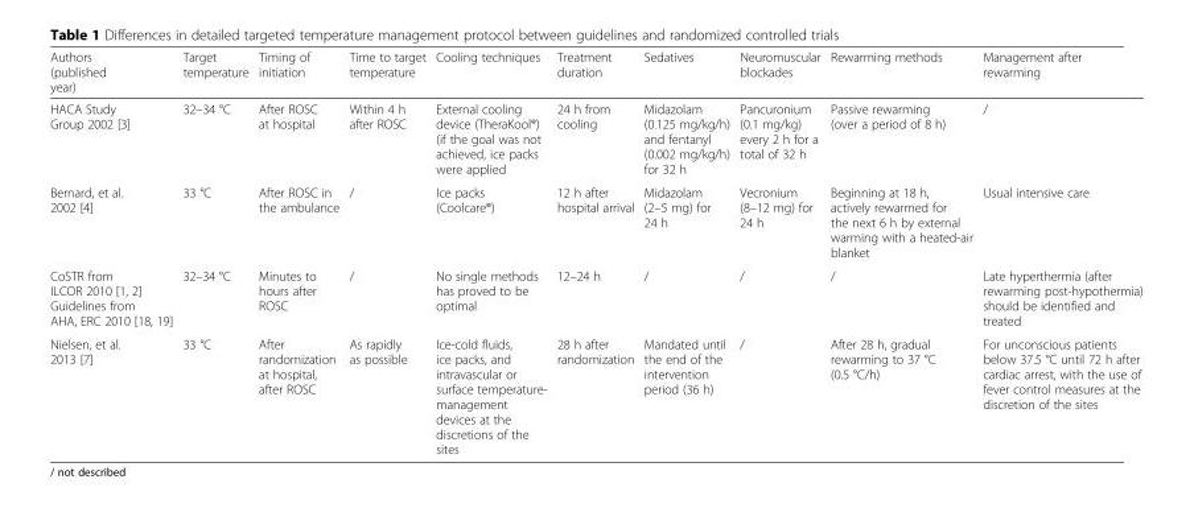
<table><thead><tr><td>Authors (published year)</td><td>Target temperature</td><td>Timing of initiation</td><td>Time to target temperature</td><td>Cooling techniques</td><td>Treatment duration</td><td>Sedatives</td><td>Neuromuscular blockades</td><td>Rewarming methods</td><td>Management after rewarming</td></tr></thead><tbody><tr><td>HACA Study Group 2002 [3]</td><td>32–34 °C</td><td>After ROSC at hospital</td><td>Within 4 h after ROSC</td><td>External cooling device (TheraKool®) (if the goal was not achieved, ice packs were applied</td><td>24 h from cooling</td><td>Midazolam (0.125 mg/kg/h) and fentanyl (0.002 mg/kg/h) for 32 h</td><td>Pancuronium (0.1 mg/kg) every 2 h for a total of 32 h</td><td>Passive rewarming (over a period of 8 h)</td><td>/</td></tr><tr><td>Bernard, et al. 2002 [4]</td><td>33 °C</td><td>After ROSC in the ambulance</td><td>/</td><td>Ice packs (Coolcare®)</td><td>12 h after hospital arrival</td><td>Midazolam (2–5 mg) for 24 h</td><td>Vecronium (8–12 mg) for 24 h</td><td>Beginning at 18 h, actively rewarmed for the next 6 h by external warming with a heated-air blanket</td><td>Usual intensive care</td></tr><tr><td>CoSTR from ILCOR 2010 [1, 2] Guidelines from AHA, ERC 2010 [18, 19]</td><td>32–34 °C</td><td>Minutes to hours after ROSC</td><td>/</td><td>No single methods has proved to be optimal</td><td>12–24 h</td><td>/</td><td>/</td><td>/</td><td>Late hyperthermia (after rewarming post-hypothermia) should be identified and treated</td></tr><tr><td>Nielsen, et al. 2013 [7]</td><td>33 °C</td><td>After randomization at hospital, after ROSC</td><td>As rapidly as possible</td><td>Ice-cold fluids, ice packs, and intravascular or surface temperature- management devices at the discretions of the sites</td><td>28 h after randomization</td><td>Mandated until the end of the intervention period (36 h)</td><td>/</td><td>After 28 h, gradual rewarming to 37 °C (0.5 °C/h)</td><td>For unconscious patients below 37.5 °C until 72 h after cardiac arrest, with the use of fever control measures at the discretion of the sites</td></tr></tbody></table>